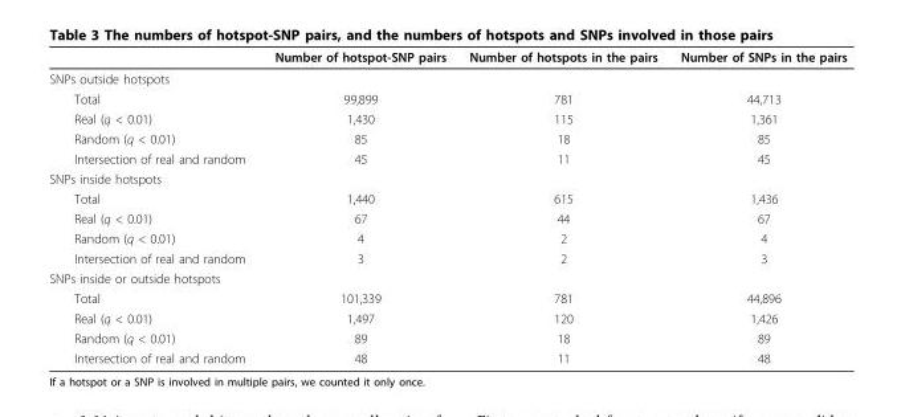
<table><thead><tr><td></td><td>Number of hotspot-SNP pairs</td><td>Number of hotspots in the pairs</td><td>Number of SNPs in the pairs</td></tr></thead><tbody><tr><td colspan="4">SNPs outside hotspots</td></tr><tr><td>Total</td><td>99,899</td><td>781</td><td>44,713</td></tr><tr><td>Real (q &lt; 0.01)</td><td>1,430</td><td>115</td><td>1,361</td></tr><tr><td>Random (q &lt; 0.01)</td><td>85</td><td>18</td><td>85</td></tr><tr><td>Intersection of real and random</td><td>45</td><td>11</td><td>45</td></tr><tr><td colspan="4">SNPs inside hotspots</td></tr><tr><td>Total</td><td>1,440</td><td>615</td><td>1,436</td></tr><tr><td>Real (q &lt; 0.01)</td><td>67</td><td>44</td><td>67</td></tr><tr><td>Random (q &lt; 0.01)</td><td>4</td><td>2</td><td>4</td></tr><tr><td>Intersection of real and random</td><td>3</td><td>2</td><td>3</td></tr><tr><td colspan="4">SNPs inside or outside hotspots</td></tr><tr><td>Total</td><td>101,339</td><td>781</td><td>44,896</td></tr><tr><td>Real (q &lt; 0.01)</td><td>1,497</td><td>120</td><td>1,426</td></tr><tr><td>Random (q &lt; 0.01)</td><td>89</td><td>18</td><td>89</td></tr><tr><td>Intersection of real and random</td><td>48</td><td>11</td><td>48</td></tr></tbody></table>